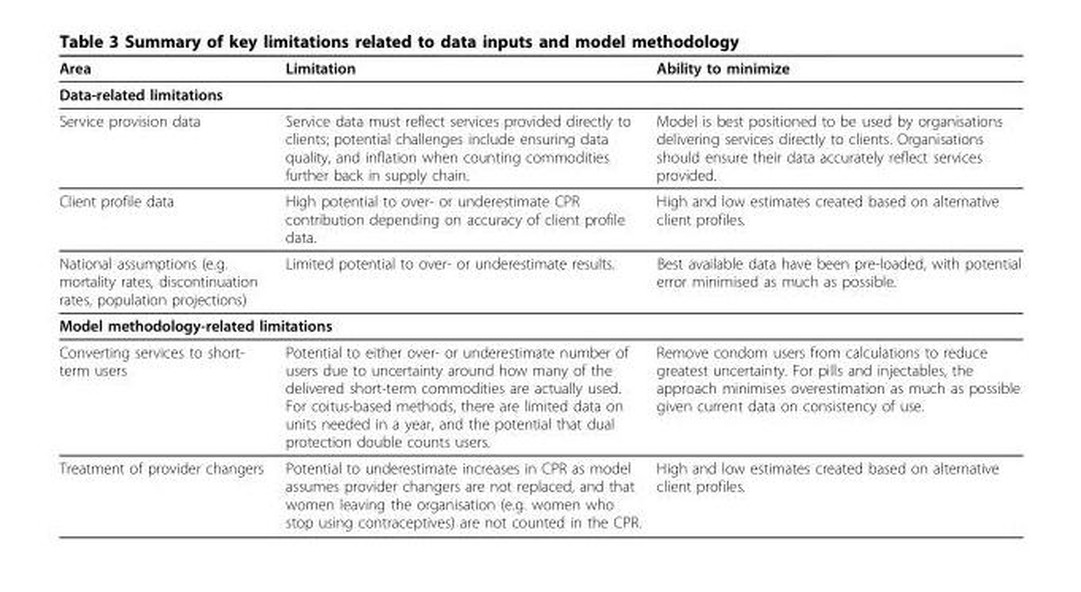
<table><thead><tr><td>Area</td><td>Limitation</td><td>Ability to minimize</td></tr></thead><tbody><tr><td colspan="3">Data-related limitations</td></tr><tr><td>Service provision data</td><td>Service data must reflect services provided directly to clients; potential challenges include ensuring data quality, and inflation when counting commodities further back in supply chain.</td><td>Model is best positioned to be used by organisations delivering services directly to clients. Organisations should ensure their data accurately reflect services provided.</td></tr><tr><td>Client profile data</td><td>High potential to over- or underestimate CPR contribution depending on accuracy of client profile data.</td><td>High and low estimates created based on alternative client profiles.</td></tr><tr><td>National assumptions (e.g. mortality rates, discontinuation rates, population projections)</td><td>Limited potential to over- or underestimate results.</td><td>Best available data have been pre-loaded, with potential error minimised as much as possible.</td></tr><tr><td colspan="3">Model methodology-related limitations</td></tr><tr><td>Converting services to short- term users</td><td>Potential to either over- or underestimate number of users due to uncertainty around how many of the delivered short-term commodities are actually used. For coitus-based methods, there are limited data on units needed in a year, and the potential that dual protection double counts users.</td><td>Remove condom users from calculations to reduce greatest uncertainty. For pills and injectables, the approach minimises overestimation as much as possible given current data on consistency of use.</td></tr><tr><td>Treatment of provider changers</td><td>Potential to underestimate increases in CPR as model assumes provider changers are not replaced, and that women leaving the organisation (e.g. women who stop using contraceptives) are not counted in the CPR.</td><td>High and low estimates created based on alternative client profiles.</td></tr></tbody></table>